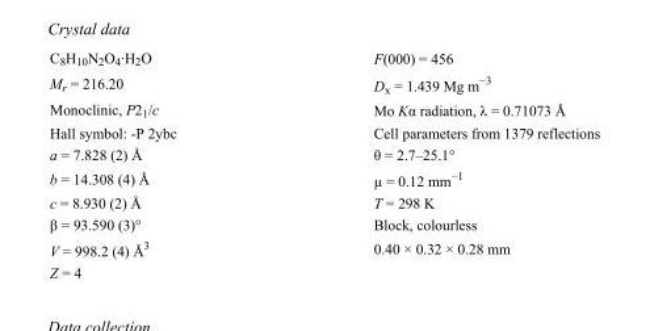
<table><tbody><tr><td>C<sub>8</sub>H<sub>10</sub>N<sub>2</sub>O<sub>4</sub>·H<sub>2</sub>O</td><td>F(000) = 456</td></tr><tr><td>M<sub>r</sub> = 216.20</td><td>D<sub>x</sub> = 1.439 Mg m<sup>−3</sup></td></tr><tr><td>Monoclinic, P2<sub>1</sub>/c</td><td>Mo Kα radiation, λ = 0.71073 Å</td></tr><tr><td>Hall symbol: -P 2ybc</td><td>Cell parameters from 1379 reflections</td></tr><tr><td>a = 7.828 (2) Å</td><td>θ = 2.7–25.1°</td></tr><tr><td>b = 14.308 (4) Å</td><td>µ = 0.12 mm<sup>−1</sup></td></tr><tr><td>c = 8.930 (2) Å</td><td>T = 298 K</td></tr><tr><td>β = 93.590 (3)°</td><td>Block, colourless</td></tr><tr><td>V = 998.2 (4) Å<sup>3</sup></td><td>0.40 × 0.32 × 0.28 mm</td></tr><tr><td>Z = 4</td><td></td></tr></tbody></table>